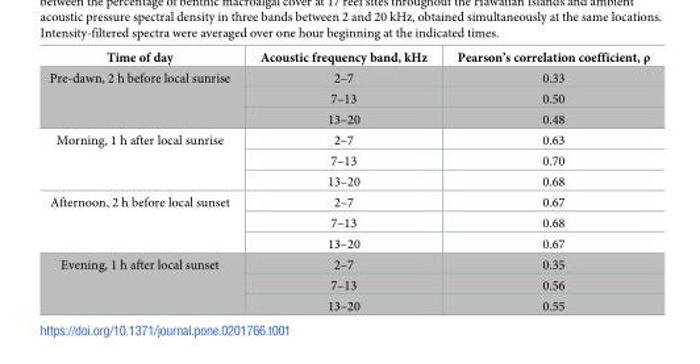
<table><thead><tr><td>Time of day</td><td>Acoustic frequency band, kHz</td><td>Pearson’s correlation coefficient, ρ</td></tr></thead><tbody><tr><td rowspan="3">Pre-dawn, 2 h before local sunrise</td><td>2–7</td><td>0.33</td></tr><tr><td>7–13</td><td>0.50</td></tr><tr><td>13–20</td><td>0.48</td></tr><tr><td rowspan="3">Morning, 1 h after local sunrise</td><td>2–7</td><td>0.63</td></tr><tr><td>7–13</td><td>0.70</td></tr><tr><td>13–20</td><td>0.68</td></tr><tr><td rowspan="3">Afternoon, 2 h before local sunset</td><td>2–7</td><td>0.67</td></tr><tr><td>7–13</td><td>0.68</td></tr><tr><td>13–20</td><td>0.67</td></tr><tr><td rowspan="3">Evening, 1 h after local sunset</td><td>2–7</td><td>0.35</td></tr><tr><td>7–13</td><td>0.56</td></tr><tr><td>13–20</td><td>0.55</td></tr></tbody></table>